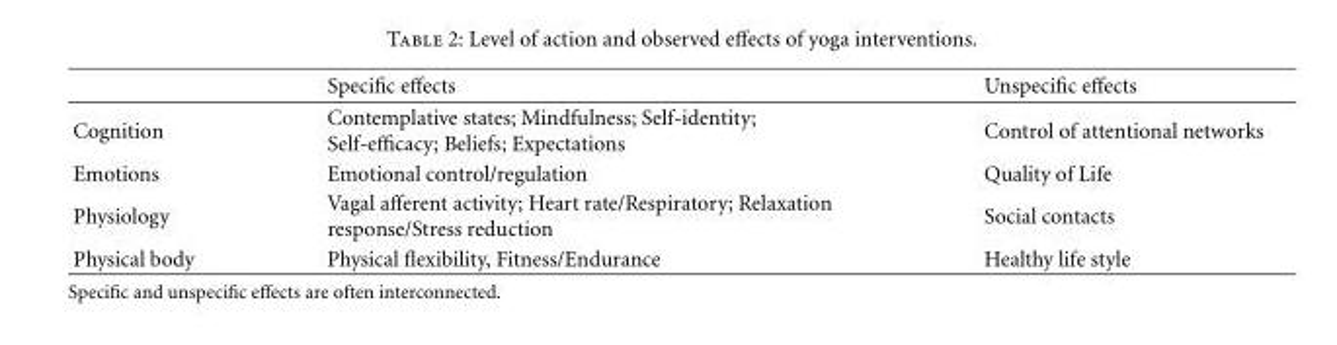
<table><thead><tr><td></td><td>Specific effects</td><td>Unspecific effects</td></tr></thead><tbody><tr><td>Cognition</td><td>Contemplative states; Mindfulness; Self-identity; Self-efficacy; Beliefs; Expectations</td><td>Control of attentional networks</td></tr><tr><td>Emotions</td><td>Emotional control/regulation</td><td>Quality of Life</td></tr><tr><td>Physiology</td><td>Vagal afferent activity; Heart rate/Respiratory; Relaxation response/Stress reduction</td><td>Social contacts</td></tr><tr><td>Physical body</td><td>Physical flexibility, Fitness/Endurance</td><td>Healthy life style</td></tr></tbody></table>